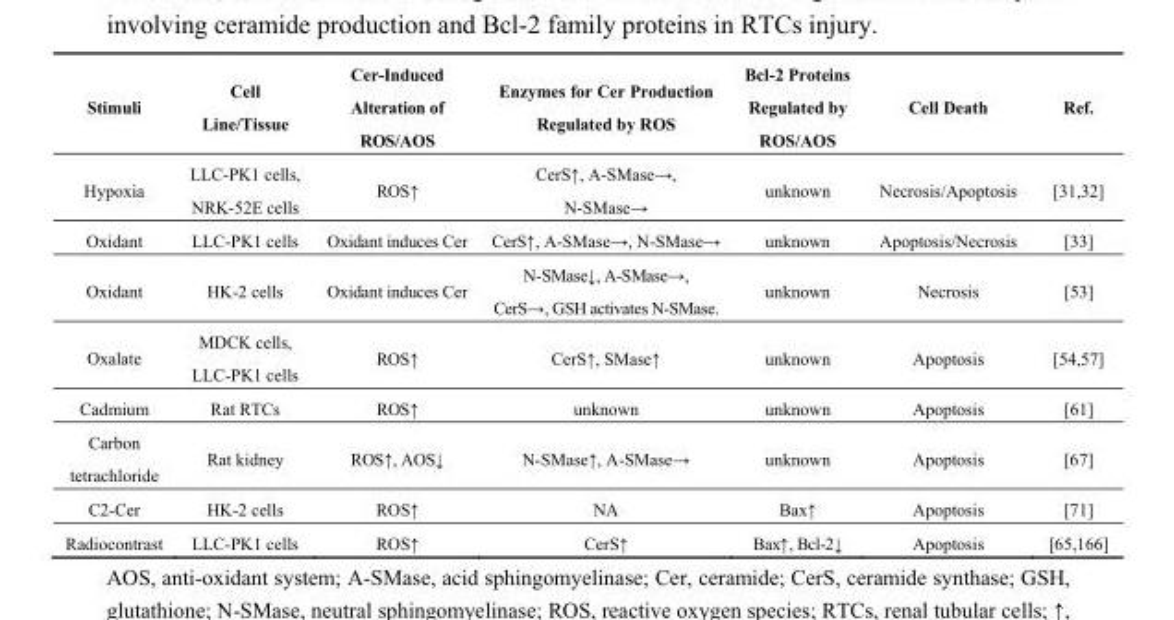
<table><thead><tr><td>Stimuli</td><td>Cell Line/Tissue</td><td>Cer-Induced Alteration of ROS/AOS</td><td>Enzymes for Cer Production Regulated by ROS</td><td>Bcl-2 Proteins Regulated by ROS/AOS</td><td>Cell Death</td><td>Ref.</td></tr></thead><tbody><tr><td>Hypoxia</td><td>LLC-PK1 cells, NRK-52E cells</td><td>ROS↑</td><td>CerS↑, A-SMase→, N-SMase→</td><td>unknown</td><td>Necrosis/Apoptosis</td><td>[31,32]</td></tr><tr><td>Oxidant</td><td>LLC-PK1 cells</td><td>Oxidant induces Cer</td><td>CerS↑, A-SMase→, N-SMase→</td><td>unknown</td><td>Apoptosis/Necrosis</td><td>[33]</td></tr><tr><td>Oxidant</td><td>HK-2 cells</td><td>Oxidant induces Cer</td><td>N-SMase↓, A-SMase→, CerS→, GSH activates N-SMase.</td><td>unknown</td><td>Necrosis</td><td>[53]</td></tr><tr><td>Oxalate</td><td>MDCK cells, LLC-PK1 cells</td><td>ROS↑</td><td>CerS↑, SMase↑</td><td>unknown</td><td>Apoptosis</td><td>[54,57]</td></tr><tr><td>Cadmium</td><td>Rat RTCs</td><td>ROS↑</td><td>unknown</td><td>unknown</td><td>Apoptosis</td><td>[61]</td></tr><tr><td>Carbon tetrachloride</td><td>Rat kidney</td><td>ROS↑, AOS↓</td><td>N-SMase↑, A-SMase→</td><td>unknown</td><td>Apoptosis</td><td>[67]</td></tr><tr><td>C2-Cer</td><td>HK-2 cells</td><td>ROS↑</td><td>NA</td><td>Bax↑</td><td>Apoptosis</td><td>[71]</td></tr><tr><td>Radiocontrast</td><td>LLC-PK1 cells</td><td>ROS↑</td><td>CerS↑</td><td>Bax↑, Bcl-2↓</td><td>Apoptosis</td><td>[65,166]</td></tr></tbody></table>